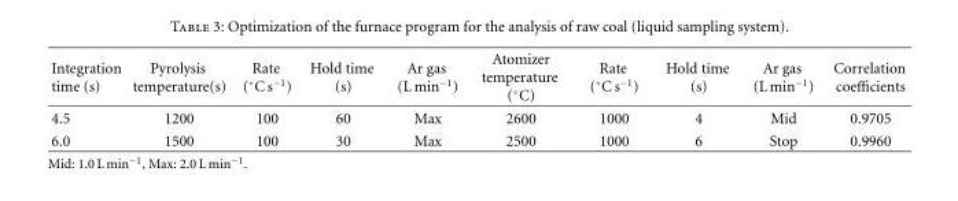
<table><thead><tr><td>Integration time (s)</td><td>Pyrolysis temperature(s)</td><td>Rate (◦C s−1)</td><td>Hold time (s)</td><td>Ar gas (L min<sup>−1</sup>)</td><td>Atomizer temperature (◦C)</td><td>Rate (◦C s−1)</td><td>Hold time (s)</td><td>Ar gas (L min<sup>−1</sup>)</td><td>Correlation coefficients</td></tr></thead><tbody><tr><td>4.5</td><td>1200</td><td>100</td><td>60</td><td>Max</td><td>2600</td><td>1000</td><td>4</td><td>Mid</td><td>0.9705</td></tr><tr><td>6.0</td><td>1500</td><td>100</td><td>30</td><td>Max</td><td>2500</td><td>1000</td><td>6</td><td>Stop</td><td>0.9960</td></tr></tbody></table>